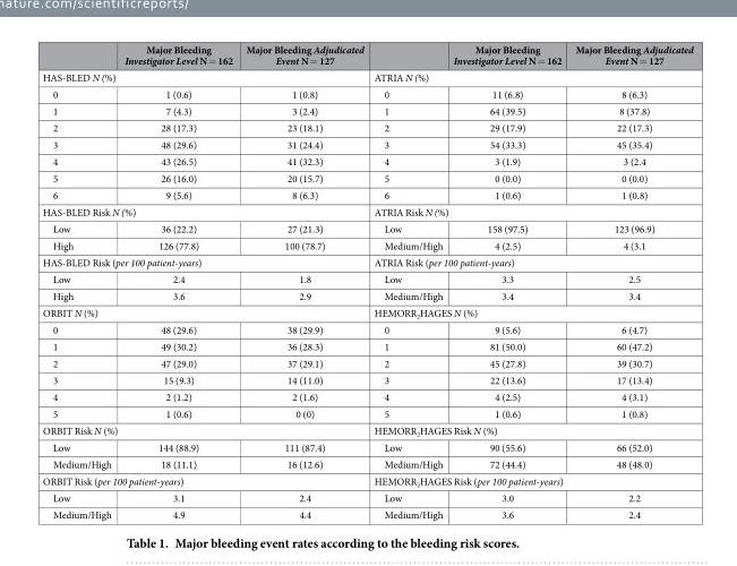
<table><thead><tr><td></td><td>Major Bleeding Investigator Level N = 162</td><td>Major Bleeding Adjudicated Event N = 127</td><td></td><td>Major Bleeding Investigator Level N = 162</td><td>Major Bleeding Adjudicated Event N = 127</td></tr></thead><tbody><tr><td colspan="3">HAS-BLED N (%)</td><td colspan="3">ATRIA N (%)</td></tr><tr><td>0</td><td>1 (0.6)</td><td>1 (0.8)</td><td>0</td><td>11 (6.8)</td><td>8 (6.3)</td></tr><tr><td>1</td><td>7 (4.3)</td><td>3 (2.4)</td><td>1</td><td>64 (39.5)</td><td>8 (37.8)</td></tr><tr><td>2</td><td>28 (17.3)</td><td>23 (18.1)</td><td>2</td><td>29 (17.9)</td><td>22 (17.3)</td></tr><tr><td>3</td><td>48 (29.6)</td><td>31 (24.4)</td><td>3</td><td>54 (33.3)</td><td>45 (35.4)</td></tr><tr><td>4</td><td>43 (26.5)</td><td>41 (32.3)</td><td>4</td><td>3 (1.9)</td><td>3 (2.4</td></tr><tr><td>5</td><td>26 (16.0)</td><td>20 (15.7)</td><td>5</td><td>0 (0.0)</td><td>0 (0.0)</td></tr><tr><td>6</td><td>9 (5.6)</td><td>8 (6.3)</td><td>6</td><td>1 (0.6)</td><td>1 (0.8)</td></tr><tr><td colspan="3">HAS-BLED Risk N (%)</td><td colspan="3">ATRIA Risk N (%)</td></tr><tr><td>Low</td><td>36 (22.2)</td><td>27 (21.3)</td><td>Low</td><td>158 (97.5)</td><td>123 (96.9)</td></tr><tr><td>High</td><td>126 (77.8)</td><td>100 (78.7)</td><td>Medium/High</td><td>4 (2.5)</td><td>4 (3.1</td></tr><tr><td colspan="3">HAS-BLED Risk (per 100 patient-years)</td><td colspan="3">ATRIA Risk (per 100 patient-years)</td></tr><tr><td>Low</td><td>2.4</td><td>1.8</td><td>Low</td><td>3.3</td><td>2.5</td></tr><tr><td>High</td><td>3.6</td><td>2.9</td><td>Medium/High</td><td>3.4</td><td>3.4</td></tr><tr><td colspan="3">ORBIT N (%)</td><td colspan="3">HEMORR<sub>2</sub>HAGES N (%)</td></tr><tr><td>0</td><td>48 (29.6)</td><td>38 (29.9)</td><td>0</td><td>9 (5.6)</td><td>6 (4.7)</td></tr><tr><td>1</td><td>49 (30.2)</td><td>36 (28.3)</td><td>1</td><td>81 (50.0)</td><td>60 (47.2)</td></tr><tr><td>2</td><td>47 (29.0)</td><td>37 (29.1)</td><td>2</td><td>45 (27.8)</td><td>39 (30.7)</td></tr><tr><td>3</td><td>15 (9.3)</td><td>14 (11.0)</td><td>3</td><td>22 (13.6)</td><td>17 (13.4)</td></tr><tr><td>4</td><td>2 (1.2)</td><td>2 (1.6)</td><td>4</td><td>4 (2.5)</td><td>4 (3.1)</td></tr><tr><td>5</td><td>1 (0.6)</td><td>0 (0)</td><td>5</td><td>1 (0.6)</td><td>1 (0.8)</td></tr><tr><td colspan="3">ORBIT Risk N (%)</td><td colspan="3">HEMORR<sub>2</sub>HAGES Risk N (%)</td></tr><tr><td>Low</td><td>144 (88.9)</td><td>111 (87.4)</td><td>Low</td><td>90 (55.6)</td><td>66 (52.0)</td></tr><tr><td>Medium/High</td><td>18 (11.1)</td><td>16 (12.6)</td><td>Medium/High</td><td>72 (44.4)</td><td>48 (48.0)</td></tr><tr><td colspan="3">ORBIT Risk (per 100 patient-years)</td><td colspan="3">HEMORR<sub>2</sub>HAGES Risk (per 100 patient-years)</td></tr><tr><td>Low</td><td>3.1</td><td>2.4</td><td>Low</td><td>3.0</td><td>2.2</td></tr><tr><td>Medium/High</td><td>4.9</td><td>4.4</td><td>Medium/High</td><td>3.6</td><td>2.4</td></tr></tbody></table>